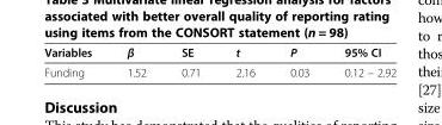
<table><thead><tr><td>Variables</td><td>β</td><td>SE</td><td>t</td><td>P</td><td>95% CI</td></tr></thead><tbody><tr><td>Funding</td><td>1.52</td><td>0.71</td><td>2.16</td><td>0.03</td><td>0.12 – 2.92</td></tr></tbody></table>